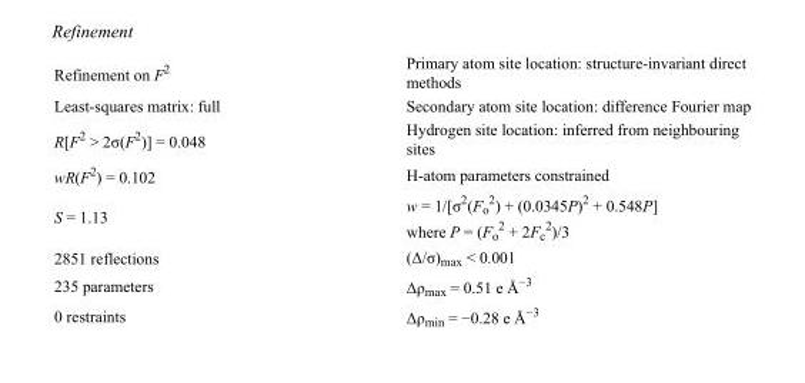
<table><tbody><tr><td>Refinement on F<sup>2</sup></td><td>Primary atom site location: structure-invariant direct methods</td></tr><tr><td>Least-squares matrix: full</td><td>Secondary atom site location: difference Fourier map</td></tr><tr><td>R[F<sup>2</sup> &gt; 2σ(F<sup>2</sup>)] = 0.048</td><td>Hydrogen site location: inferred from neighbouring sites</td></tr><tr><td>wR(F<sup>2</sup>) = 0.102</td><td>H-atom parameters constrained</td></tr><tr><td>S = 1.13</td><td>w = 1/[σ<sup>2</sup>(F<sub>o</sub> <sup>2</sup>) + (0.0345P)<sup>2</sup> + 0.548P] where P = (F<sub>o</sub> <sup>2</sup> + 2F<sub>c</sub> <sup>2</sup>)/3</td></tr><tr><td>2851 reflections</td><td>(Δ/σ)<sub>max</sub> &lt; 0.001</td></tr><tr><td>235 parameters</td><td>Δρ<sub>max</sub> = 0.51 e Å<sup>−3</sup></td></tr><tr><td>0 restraints</td><td>Δρ<sub>min</sub> = −0.28 e Å<sup>−3</sup></td></tr></tbody></table>